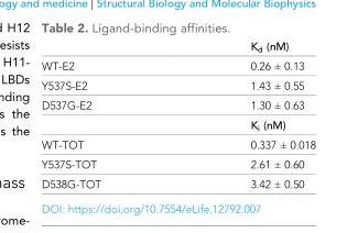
<table><thead><tr><td></td><td>K<sub>d</sub> (nM)</td></tr></thead><tbody><tr><td>WT-E2</td><td>0.26 ± 0.13</td></tr><tr><td>Y537S-E2</td><td>1.43 ± 0.55</td></tr><tr><td rowspan="2">D537G-E2</td><td>1.30 ± 0.63</td></tr><tr><td>K<sub>i</sub> (nM)</td></tr><tr><td>WT-TOT</td><td>0.337 ± 0.018</td></tr><tr><td>Y537S-TOT</td><td>2.61 ± 0.60</td></tr><tr><td>D538G-TOT</td><td>3.42 ± 0.50</td></tr></tbody></table>